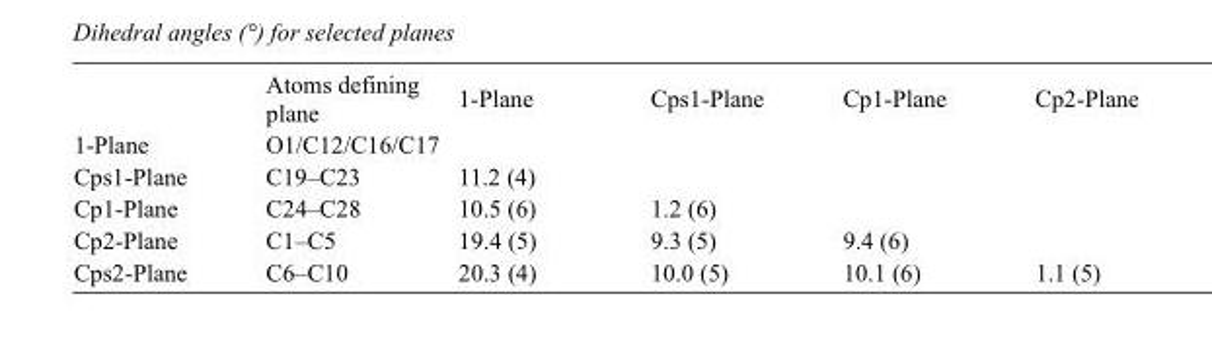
<table><thead><tr><td></td><td>Atoms defining plane</td><td>1-Plane</td><td>Cps1-Plane</td><td>Cp1-Plane</td><td>Cp2-Plane</td></tr></thead><tbody><tr><td>1-Plane</td><td>O1/C12/C16/C17</td><td></td><td></td><td></td><td></td></tr><tr><td>Cps1-Plane</td><td>C19–C23</td><td>11.2 (4)</td><td></td><td></td><td></td></tr><tr><td>Cp1-Plane</td><td>C24–C28</td><td>10.5 (6)</td><td>1.2 (6)</td><td></td><td></td></tr><tr><td>Cp2-Plane</td><td>C1–C5</td><td>19.4 (5)</td><td>9.3 (5)</td><td>9.4 (6)</td><td></td></tr><tr><td>Cps2-Plane</td><td>C6–C10</td><td>20.3 (4)</td><td>10.0 (5)</td><td>10.1 (6)</td><td>1.1 (5)</td></tr></tbody></table>